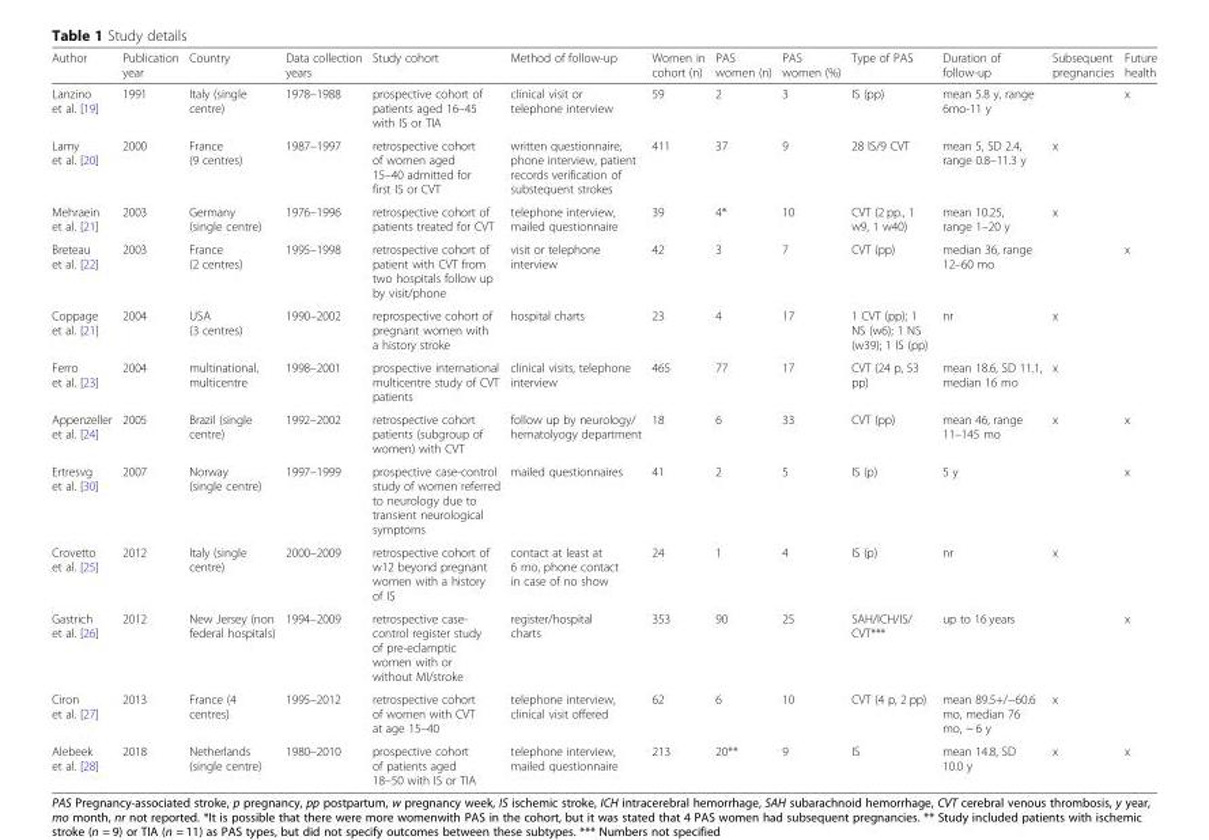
<table><thead><tr><td>Author</td><td>Publication year</td><td>Country</td><td>Data collection years</td><td>Study cohort</td><td>Method of follow-up</td><td>Women in cohort (n)</td><td>PAS women (n)</td><td>PAS women (%)</td><td>Type of PAS</td><td>Duration of follow-up</td><td>Subsequent pregnancies</td><td>Future health</td></tr></thead><tbody><tr><td>Lanzino et al. [19]</td><td>1991</td><td>Italy (single centre)</td><td>1978–1988</td><td>prospective cohort of patients aged 16–45 with IS or TIA</td><td>clinical visit or telephone interview</td><td>59</td><td>2</td><td>3</td><td>IS (pp)</td><td>mean 5.8 y, range 6mo-11 y</td><td></td><td>x</td></tr><tr><td>Lamy et al. [20]</td><td>2000</td><td>France (9 centres)</td><td>1987–1997</td><td>retrospective cohort of women aged 15–40 admitted for first IS or CVT</td><td>written questionnaire, phone interview, patient records verification of substequent strokes</td><td>411</td><td>37</td><td>9</td><td>28 IS/9 CVT</td><td>mean 5, SD 2.4, range 0.8–11.3 y</td><td>x</td><td></td></tr><tr><td>Mehraein et al. [21]</td><td>2003</td><td>Germany (single centre)</td><td>1976–1996</td><td>retrospective cohort of patients treated for CVT</td><td>telephone interview, mailed questionnaire</td><td>39</td><td>4*</td><td>10</td><td>CVT (2 pp., 1 w9, 1 w40)</td><td>mean 10.25, range 1–20 y</td><td>x</td><td></td></tr><tr><td>Breteau et al. [22]</td><td>2003</td><td>France (2 centres)</td><td>1995–1998</td><td>retrospective cohort of patient with CVT from two hospitals follow up by visit/phone</td><td>visit or telephone interview</td><td>42</td><td>3</td><td>7</td><td>CVT (pp)</td><td>median 36, range 12–60 mo</td><td></td><td>x</td></tr><tr><td>Coppage et al. [21]</td><td>2004</td><td>USA (3 centres)</td><td>1990–2002</td><td>reprospective cohort of pregnant women with a history stroke</td><td>hospital charts</td><td>23</td><td>4</td><td>17</td><td>1 CVT (pp); 1 NS (w6); 1 NS (w39); 1 IS (pp)</td><td>nr</td><td>x</td><td></td></tr><tr><td>Ferro et al. [23]</td><td>2004</td><td>multinational, multicentre</td><td>1998–2001</td><td>prospective international multicentre study of CVT patients</td><td>clinical visits, telephone interview</td><td>465</td><td>77</td><td>17</td><td>CVT (24 p, 53 pp)</td><td>mean 18.6, SD 11.1, median 16 mo</td><td>x</td><td></td></tr><tr><td>Appenzeller et al. [24]</td><td>2005</td><td>Brazil (single centre)</td><td>1992–2002</td><td>retrospective cohort patients (subgroup of women) with CVT</td><td>follow up by neurology/ hematolyogy department</td><td>18</td><td>6</td><td>33</td><td>CVT (pp)</td><td>mean 46, range 11–145 mo</td><td>x</td><td>x</td></tr><tr><td>Ertresvg et al. [30]</td><td>2007</td><td>Norway (single centre)</td><td>1997–1999</td><td>prospective case-control study of women referred to neurology due to transient neurological symptoms</td><td>mailed questionnaires</td><td>41</td><td>2</td><td>5</td><td>IS (p)</td><td>5 y</td><td></td><td>x</td></tr><tr><td>Crovetto et al. [25]</td><td>2012</td><td>Italy (single centre)</td><td>2000–2009</td><td>retrospective cohort of w12 beyond pregnant women with a history of IS</td><td>contact at least at 6 mo, phone contact in case of no show</td><td>24</td><td>1</td><td>4</td><td>IS (p)</td><td>nr</td><td>x</td><td></td></tr><tr><td>Gastrich et al. [26]</td><td>2012</td><td>New Jersey (non federal hospitals)</td><td>1994–2009</td><td>retrospective case- control register study of pre-eclamptic women with or without MI/stroke</td><td>register/hospital charts</td><td>353</td><td>90</td><td>25</td><td>SAH/ICH/IS/ CVT***</td><td>up to 16 years</td><td></td><td>x</td></tr><tr><td>Ciron et al. [27]</td><td>2013</td><td>France (4 centres)</td><td>1995–2012</td><td>retrospective cohort of women with CVT at age 15–40</td><td>telephone interview, clinical visit offered</td><td>62</td><td>6</td><td>10</td><td>CVT (4 p, 2 pp)</td><td>mean 89.5+/−60.6 mo, median 76 mo, ~ 6 y</td><td>x</td><td></td></tr><tr><td>Alebeek et al. [28]</td><td>2018</td><td>Netherlands (single centre)</td><td>1980–2010</td><td>prospective cohort of patients aged 18–50 with IS or TIA</td><td>telephone interview, mailed questionnaire</td><td>213</td><td>20**</td><td>9</td><td>IS</td><td>mean 14.8, SD 10.0 y</td><td>x</td><td>x</td></tr></tbody></table>